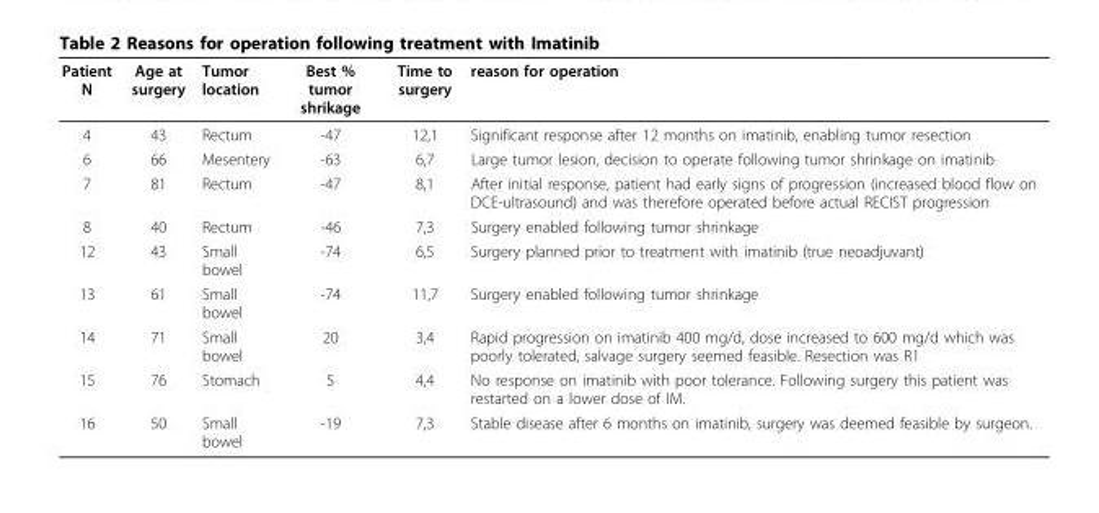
<table><thead><tr><td>Patient N</td><td>Age at surgery</td><td>Tumor location</td><td>Best % tumor shrikage</td><td>Time to surgery</td><td>reason for operation</td></tr></thead><tbody><tr><td>4</td><td>43</td><td>Rectum</td><td>-47</td><td>12,1</td><td>Significant response after 12 months on imatinib, enabling tumor resection</td></tr><tr><td>6</td><td>66</td><td>Mesentery</td><td>-63</td><td>6,7</td><td>Large tumor lesion, decision to operate following tumor shrinkage on imatinib</td></tr><tr><td>7</td><td>81</td><td>Rectum</td><td>-47</td><td>8,1</td><td>After initial response, patient had early signs of progression (increased blood flow on DCE-ultrasound) and was therefore operated before actual RECIST progression</td></tr><tr><td>8</td><td>40</td><td>Rectum</td><td>-46</td><td>7,3</td><td>Surgery enabled following tumor shrinkage</td></tr><tr><td>12</td><td>43</td><td>Small bowel</td><td>-74</td><td>6,5</td><td>Surgery planned prior to treatment with imatinib (true neoadjuvant)</td></tr><tr><td>13</td><td>61</td><td>Small bowel</td><td>-74</td><td>11,7</td><td>Surgery enabled following tumor shrinkage</td></tr><tr><td>14</td><td>71</td><td>Small bowel</td><td>20</td><td>3,4</td><td>Rapid progression on imatinib 400 mg/d, dose increased to 600 mg/d which was poorly tolerated, salvage surgery seemed feasible. Resection was R1</td></tr><tr><td>15</td><td>76</td><td>Stomach</td><td>5</td><td>4,4</td><td>No response on imatinib with poor tolerance. Following surgery this patient was restarted on a lower dose of IM.</td></tr><tr><td>16</td><td>50</td><td>Small bowel</td><td>-19</td><td>7,3</td><td>Stable disease after 6 months on imatinib, surgery was deemed feasible by surgeon.</td></tr></tbody></table>